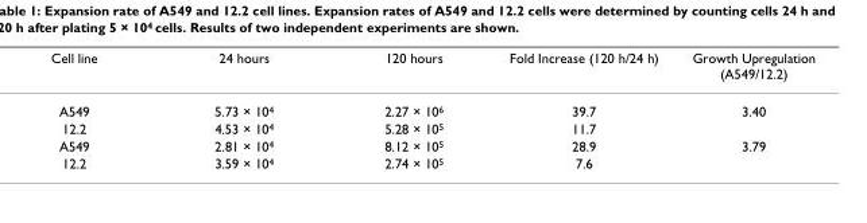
<table><thead><tr><td>Cell line</td><td>24 hours</td><td>120 hours</td><td>Fold Increase (120 h/24 h)</td><td>Growth Upregulation (A549/12.2)</td></tr></thead><tbody><tr><td>A549</td><td>5.73 × 10<sup>4</sup></td><td>2.27 × 10<sup>6</sup></td><td>39.7</td><td>3.40</td></tr><tr><td>12.2</td><td>4.53 × 10<sup>4</sup></td><td>5.28 × 10<sup>5</sup></td><td>11.7</td><td></td></tr><tr><td>A549</td><td>2.81 × 10<sup>4</sup></td><td>8.12 × 10<sup>5</sup></td><td>28.9</td><td>3.79</td></tr><tr><td>12.2</td><td>3.59 × 10<sup>4</sup></td><td>2.74 × 10<sup>5</sup></td><td>7.6</td><td></td></tr></tbody></table>